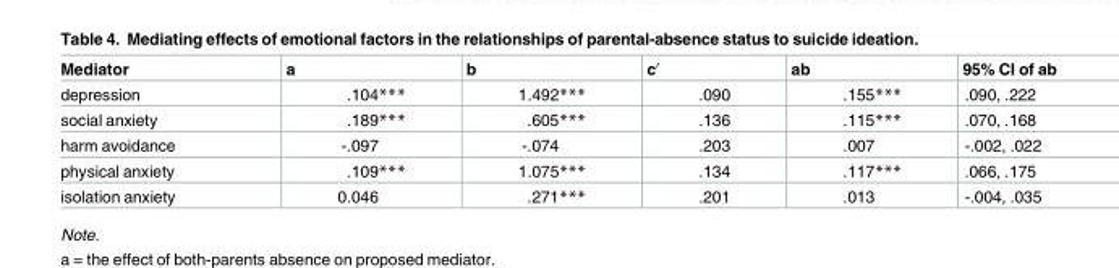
<table><thead><tr><td>Mediator</td><td>a</td><td>b</td><td>c′</td><td>ab</td><td>95% CI of ab</td></tr></thead><tbody><tr><td>depression</td><td>.104***</td><td>1.492***</td><td>.090</td><td>.155***</td><td>.090, .222</td></tr><tr><td>social anxiety</td><td>.189***</td><td>.605***</td><td>.136</td><td>.115***</td><td>.070, .168</td></tr><tr><td>harm avoidance</td><td>-.097</td><td>-.074</td><td>.203</td><td>.007</td><td>-.002, .022</td></tr><tr><td>physical anxiety</td><td>.109***</td><td>1.075***</td><td>.134</td><td>.117***</td><td>.066, .175</td></tr><tr><td>isolation anxiety</td><td>0.046</td><td>.271***</td><td>.201</td><td>.013</td><td>-.004, .035</td></tr></tbody></table>